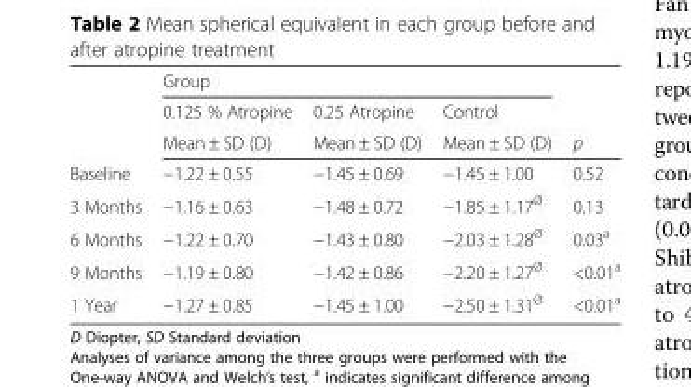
<table><thead><tr><td rowspan="3"></td><td colspan="3">Group</td><td rowspan="3">p</td></tr><tr><td rowspan="2">0.125 % Atropine Mean ± SD (D)</td><td rowspan="2">0.25 Atropine Mean ± SD (D)</td><td rowspan="2">Control Mean ± SD (D)</td></tr><tr></tr></thead><tbody><tr><td>Baseline</td><td>−1.22 ± 0.55</td><td>−1.45 ± 0.69</td><td>−1.45 ± 1.00</td><td>0.52</td></tr><tr><td>3 Months</td><td>−1.16 ± 0.63</td><td>−1.48 ± 0.72</td><td>−1.85 ± 1.17<sup>Ø</sup></td><td>0.13</td></tr><tr><td>6 Months</td><td>−1.22 ± 0.70</td><td>−1.43 ± 0.80</td><td>−2.03 ± 1.28<sup>Ø</sup></td><td>0.03<sup>a</sup></td></tr><tr><td>9 Months</td><td>−1.19 ± 0.80</td><td>−1.42 ± 0.86</td><td>−2.20 ± 1.27<sup>Ø</sup></td><td>&lt;0.01<sup>a</sup></td></tr><tr><td>1 Year</td><td>−1.27 ± 0.85</td><td>−1.45 ± 1.00</td><td>−2.50 ± 1.31<sup>Ø</sup></td><td>&lt;0.01<sup>a</sup></td></tr></tbody></table>